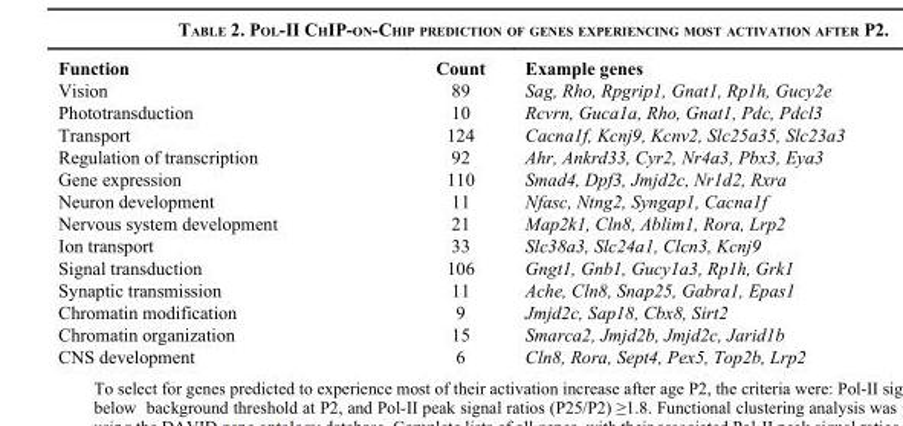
<table><thead><tr><td>Function</td><td>Count</td><td>Example genes</td></tr></thead><tbody><tr><td>Vision</td><td>89</td><td>Sag, Rho, Rpgrip1, Gnat1, Rp1h, Gucy2e</td></tr><tr><td>Phototransduction</td><td>10</td><td>Rcvrn, Guca1a, Rho, Gnat1, Pdc, Pdcl3</td></tr><tr><td>Transport</td><td>124</td><td>Cacna1f, Kcnj9, Kcnv2, Slc25a35, Slc23a3</td></tr><tr><td>Regulation of transcription</td><td>92</td><td>Ahr, Ankrd33, Cyr2, Nr4a3, Pbx3, Eya3</td></tr><tr><td>Gene expression</td><td>110</td><td>Smad4, Dpf3, Jmjd2c, Nr1d2, Rxra</td></tr><tr><td>Neuron development</td><td>11</td><td>Nfasc, Ntng2, Syngap1, Cacna1f</td></tr><tr><td>Nervous system development</td><td>21</td><td>Map2k1, Cln8, Ablim1, Rora, Lrp2</td></tr><tr><td>Ion transport</td><td>33</td><td>Slc38a3, Slc24a1, Clcn3, Kcnj9</td></tr><tr><td>Signal transduction</td><td>106</td><td>Gngt1, Gnb1, Gucy1a3, Rp1h, Grk1</td></tr><tr><td>Synaptic transmission</td><td>11</td><td>Ache, Cln8, Snap25, Gabra1, Epas1</td></tr><tr><td>Chromatin modification</td><td>9</td><td>Jmjd2c, Sap18, Cbx8, Sirt2</td></tr><tr><td>Chromatin organization</td><td>15</td><td>Smarca2, Jmjd2b, Jmjd2c, Jarid1b</td></tr><tr><td>CNS development</td><td>6</td><td>Cln8, Rora, Sept4, Pex5, Top2b, Lrp2</td></tr></tbody></table>